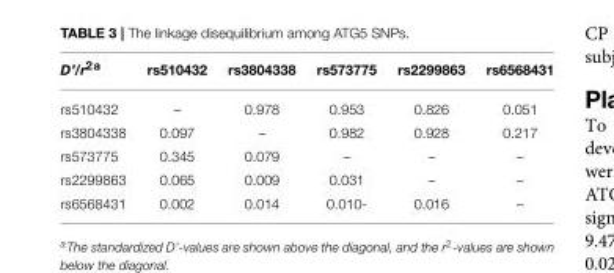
<table><thead><tr><td>D’/r<sup>2a</sup></td><td>rs510432</td><td>rs3804338</td><td>rs573775</td><td>rs2299863</td><td>rs6568431</td></tr></thead><tbody><tr><td>rs510432</td><td>–</td><td>0.978</td><td>0.953</td><td>0.826</td><td>0.051</td></tr><tr><td>rs3804338</td><td>0.097</td><td>–</td><td>0.982</td><td>0.928</td><td>0.217</td></tr><tr><td>rs573775</td><td>0.345</td><td>0.079</td><td>–</td><td>–</td><td>–</td></tr><tr><td>rs2299863</td><td>0.065</td><td>0.009</td><td>0.031</td><td>–</td><td>–</td></tr><tr><td>rs6568431</td><td>0.002</td><td>0.014</td><td>0.010-</td><td>0.016</td><td>–</td></tr></tbody></table>